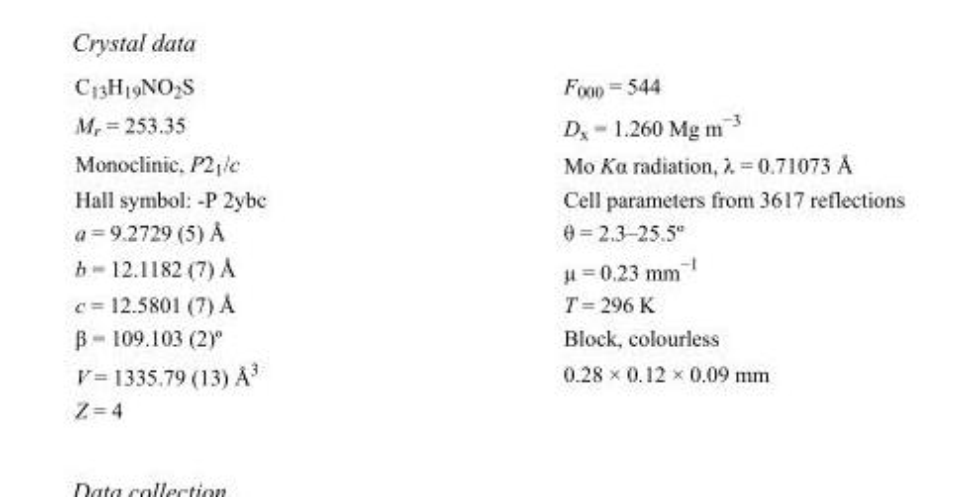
<table><tbody><tr><td>C<sub>13</sub>H<sub>19</sub>NO<sub>2</sub>S</td><td>F000 = 544</td></tr><tr><td>M<sub>r</sub> = 253.35</td><td>D<sub>x</sub> = 1.260 Mg m<sup>−3</sup></td></tr><tr><td>Monoclinic, P2<sub>1</sub>/c</td><td>Mo Kα radiation, λ = 0.71073 Å</td></tr><tr><td>Hall symbol: -P 2ybc</td><td>Cell parameters from 3617 reflections</td></tr><tr><td>a = 9.2729 (5) Å</td><td>θ = 2.3–25.5º</td></tr><tr><td>b = 12.1182 (7) Å</td><td>µ = 0.23 mm<sup>−1</sup></td></tr><tr><td>c = 12.5801 (7) Å</td><td>T = 296 K</td></tr><tr><td>β = 109.103 (2)º</td><td>Block, colourless</td></tr><tr><td>V = 1335.79 (13) Å<sup>3</sup></td><td>0.28 × 0.12 × 0.09 mm</td></tr><tr><td>Z = 4</td><td></td></tr></tbody></table>